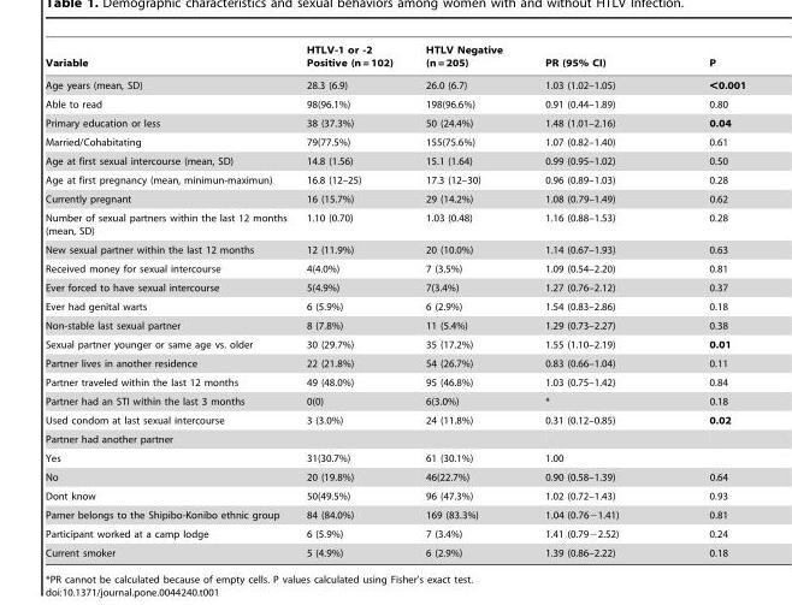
<table><thead><tr><td>Variable</td><td>HTLV-1 or -2 Positive (n = 102)</td><td>HTLV Negative (n = 205)</td><td>PR (95% CI)</td><td>P</td></tr></thead><tbody><tr><td>Age years (mean, SD)</td><td>28.3 (6.9)</td><td>26.0 (6.7)</td><td>1.03 (1.02–1.05)</td><td>&lt;0.001</td></tr><tr><td>Able to read</td><td>98(96.1%)</td><td>198(96.6%)</td><td>0.91 (0.44–1.89)</td><td>0.80</td></tr><tr><td>Primary education or less</td><td>38 (37.3%)</td><td>50 (24.4%)</td><td>1.48 (1.01–2.16)</td><td>0.04</td></tr><tr><td>Married/Cohabitating</td><td>79(77.5%)</td><td>155(75.6%)</td><td>1.07 (0.82–1.40)</td><td>0.61</td></tr><tr><td>Age at first sexual intercourse (mean, SD)</td><td>14.8 (1.56)</td><td>15.1 (1.64)</td><td>0.99 (0.95–1.02)</td><td>0.50</td></tr><tr><td>Age at first pregnancy (mean, minimun-maximun)</td><td>16.8 (12–25)</td><td>17.3 (12–30)</td><td>0.96 (0.89–1.03)</td><td>0.28</td></tr><tr><td>Currently pregnant</td><td>16 (15.7%)</td><td>29 (14.2%)</td><td>1.08 (0.79–1.49)</td><td>0.62</td></tr><tr><td>Number of sexual partners within the last 12 months (mean, SD)</td><td>1.10 (0.70)</td><td>1.03 (0.48)</td><td>1.16 (0.88–1.53)</td><td>0.28</td></tr><tr><td>New sexual partner within the last 12 months</td><td>12 (11.9%)</td><td>20 (10.0%)</td><td>1.14 (0.67–1.93)</td><td>0.63</td></tr><tr><td>Received money for sexual intercourse</td><td>4(4.0%)</td><td>7 (3.5%)</td><td>1.09 (0.54–2.20)</td><td>0.81</td></tr><tr><td>Ever forced to have sexual intercourse</td><td>5(4.9%)</td><td>7(3.4%)</td><td>1.27 (0.76–2.12)</td><td>0.37</td></tr><tr><td>Ever had genital warts</td><td>6 (5.9%)</td><td>6 (2.9%)</td><td>1.54 (0.83–2.86)</td><td>0.18</td></tr><tr><td>Non-stable last sexual partner</td><td>8 (7.8%)</td><td>11 (5.4%)</td><td>1.29 (0.73–2.27)</td><td>0.38</td></tr><tr><td>Sexual partner younger or same age vs. older</td><td>30 (29.7%)</td><td>35 (17.2%)</td><td>1.55 (1.10–2.19)</td><td>0.01</td></tr><tr><td>Partner lives in another residence</td><td>22 (21.8%)</td><td>54 (26.7%)</td><td>0.83 (0.66–1.04)</td><td>0.11</td></tr><tr><td>Partner traveled within the last 12 months</td><td>49 (48.0%)</td><td>95 (46.8%)</td><td>1.03 (0.75–1.42)</td><td>0.84</td></tr><tr><td>Partner had an STI within the last 3 months</td><td>0(0)</td><td>6(3.0%)</td><td>*</td><td>0.18</td></tr><tr><td>Used condom at last sexual intercourse</td><td>3 (3.0%)</td><td>24 (11.8%)</td><td>0.31 (0.12–0.85)</td><td>0.02</td></tr><tr><td colspan="5">Partner had another partner</td></tr><tr><td>Yes</td><td>31(30.7%)</td><td>61 (30.1%)</td><td>1.00</td><td></td></tr><tr><td>No</td><td>20 (19.8%)</td><td>46(22.7%)</td><td>0.90 (0.58–1.39)</td><td>0.64</td></tr><tr><td>Dont know</td><td>50(49.5%)</td><td>96 (47.3%)</td><td>1.02 (0.72–1.43)</td><td>0.93</td></tr><tr><td>Parner belongs to the Shipibo-Konibo ethnic group</td><td>84 (84.0%)</td><td>169 (83.3%)</td><td>1.04 (0.76−1.41)</td><td>0.81</td></tr><tr><td>Participant worked at a camp lodge</td><td>6 (5.9%)</td><td>7 (3.4%)</td><td>1.41 (0.79−2.52)</td><td>0.24</td></tr><tr><td>Current smoker</td><td>5 (4.9%)</td><td>6 (2.9%)</td><td>1.39 (0.86–2.22)</td><td>0.18</td></tr></tbody></table>